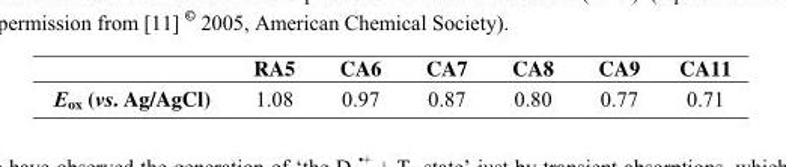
<table><thead><tr><td></td><td>RA5</td><td>CA6</td><td>CA7</td><td>CA8</td><td>CA9</td><td>CA11</td></tr></thead><tbody><tr><td>E<sub>ox</sub> (vs. Ag/AgCl)</td><td>1.08</td><td>0.97</td><td>0.87</td><td>0.80</td><td>0.77</td><td>0.71</td></tr></tbody></table>